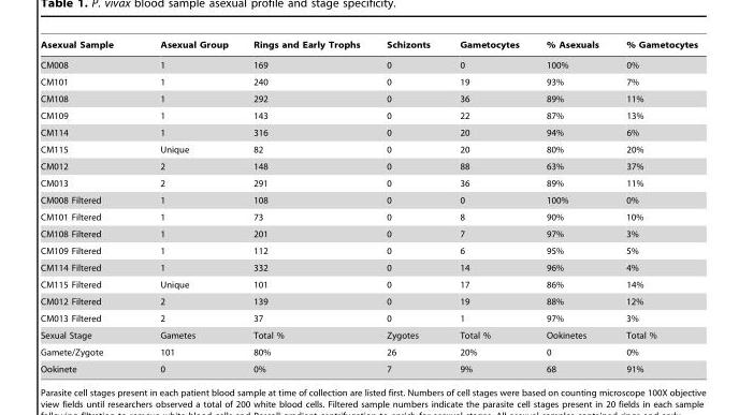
<table><thead><tr><td>Asexual Sample</td><td>Asexual Group</td><td>Rings and Early Trophs</td><td>Schizonts</td><td>Gametocytes</td><td>% Asexuals</td><td>% Gametocytes</td></tr></thead><tbody><tr><td>CM008</td><td>1</td><td>169</td><td>0</td><td>0</td><td>100%</td><td>0%</td></tr><tr><td>CM101</td><td>1</td><td>240</td><td>0</td><td>19</td><td>93%</td><td>7%</td></tr><tr><td>CM108</td><td>1</td><td>292</td><td>0</td><td>36</td><td>89%</td><td>11%</td></tr><tr><td>CM109</td><td>1</td><td>143</td><td>0</td><td>22</td><td>87%</td><td>13%</td></tr><tr><td>CM114</td><td>1</td><td>316</td><td>0</td><td>20</td><td>94%</td><td>6%</td></tr><tr><td>CM115</td><td>Unique</td><td>82</td><td>0</td><td>20</td><td>80%</td><td>20%</td></tr><tr><td>CM012</td><td>2</td><td>148</td><td>0</td><td>88</td><td>63%</td><td>37%</td></tr><tr><td>CM013</td><td>2</td><td>291</td><td>0</td><td>36</td><td>89%</td><td>11%</td></tr><tr><td>CM008 Filtered</td><td>1</td><td>108</td><td>0</td><td>0</td><td>100%</td><td>0%</td></tr><tr><td>CM101 Filtered</td><td>1</td><td>73</td><td>0</td><td>8</td><td>90%</td><td>10%</td></tr><tr><td>CM108 Filtered</td><td>1</td><td>201</td><td>0</td><td>7</td><td>97%</td><td>3%</td></tr><tr><td>CM109 Filtered</td><td>1</td><td>112</td><td>0</td><td>6</td><td>95%</td><td>5%</td></tr><tr><td>CM114 Filtered</td><td>1</td><td>332</td><td>0</td><td>14</td><td>96%</td><td>4%</td></tr><tr><td>CM115 Filtered</td><td>Unique</td><td>101</td><td>0</td><td>17</td><td>86%</td><td>14%</td></tr><tr><td>CM012 Filtered</td><td>2</td><td>139</td><td>0</td><td>19</td><td>88%</td><td>12%</td></tr><tr><td>CM013 Filtered</td><td>2</td><td>37</td><td>0</td><td>1</td><td>97%</td><td>3%</td></tr><tr><td>Sexual Stage</td><td>Gametes</td><td>Total %</td><td>Zygotes</td><td>Total %</td><td>Ookinetes</td><td>Total %</td></tr><tr><td>Gamete/Zygote</td><td>101</td><td>80%</td><td>26</td><td>20%</td><td>0</td><td>0%</td></tr><tr><td>Ookinete</td><td>0</td><td>0%</td><td>7</td><td>9%</td><td>68</td><td>91%</td></tr></tbody></table>